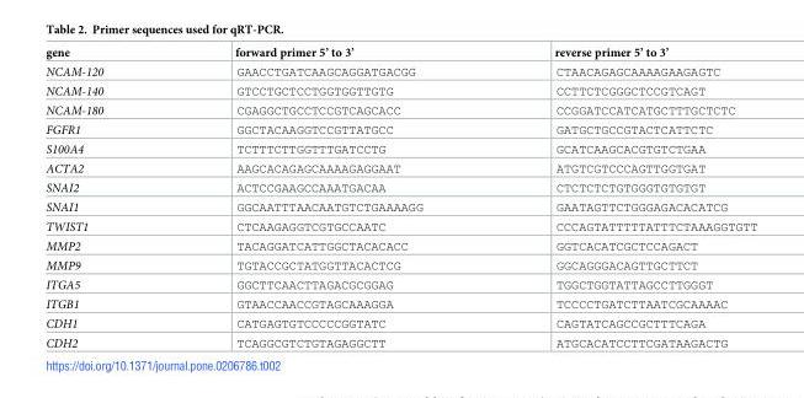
<table><thead><tr><td>gene</td><td>forward primer 5’ to 3’</td><td>reverse primer 5’ to 3’</td></tr></thead><tbody><tr><td>NCAM-120</td><td>GAACCTGATCAAGCAGGATGACGG</td><td>CTAACAGAGCAAAAGAAGAGTC</td></tr><tr><td>NCAM-140</td><td>GTCCTGCTCCTGGTGGTTGTG</td><td>CCTTCTCGGGCTCCGTCAGT</td></tr><tr><td>NCAM-180</td><td>CGAGGCTGCCTCCGTCAGCACC</td><td>CCGGATCCATCATGCTTTGCTCTC</td></tr><tr><td>FGFR1</td><td>GGCTACAAGGTCCGTTATGCC</td><td>GATGCTGCCGTACTCATTCTC</td></tr><tr><td>S100A4</td><td>TCTTTCTTGGTTTGATCCTG</td><td>GCATCAAGCACGTGTCTGAA</td></tr><tr><td>ACTA2</td><td>AAGCACAGAGCAAAAGAGGAAT</td><td>ATGTCGTCCCAGTTGGTGAT</td></tr><tr><td>SNAI2</td><td>ACTCCGAAGCCAAATGACAA</td><td>CTCTCTCTGTGGGTGTGTGT</td></tr><tr><td>SNAI1</td><td>GGCAATTTAACAATGTCTGAAAAGG</td><td>GAATAGTTCTGGGAGACACATCG</td></tr><tr><td>TWIST1</td><td>CTCAAGAGGTCGTGCCAATC</td><td>CCCAGTATTTTTATTTCTAAAGGTGTT</td></tr><tr><td>MMP2</td><td>TACAGGATCATTGGCTACACACC</td><td>GGTCACATCGCTCCAGACT</td></tr><tr><td>MMP9</td><td>TGTACCGCTATGGTTACACTCG</td><td>GGCAGGGACAGTTGCTTCT</td></tr><tr><td>ITGA5</td><td>GGCTTCAACTTAGACGCGGAG</td><td>TGGCTGGTATTAGCCTTGGGT</td></tr><tr><td>ITGB1</td><td>GTAACCAACCGTAGCAAAGGA</td><td>TCCCCTGATCTTAATCGCAAAAC</td></tr><tr><td>CDH1</td><td>CATGAGTGTCCCCCGGTATC</td><td>CAGTATCAGCCGCTTTCAGA</td></tr><tr><td>CDH2</td><td>TCAGGCGTCTGTAGAGGCTT</td><td>ATGCACATCCTTCGATAAGACTG</td></tr></tbody></table>